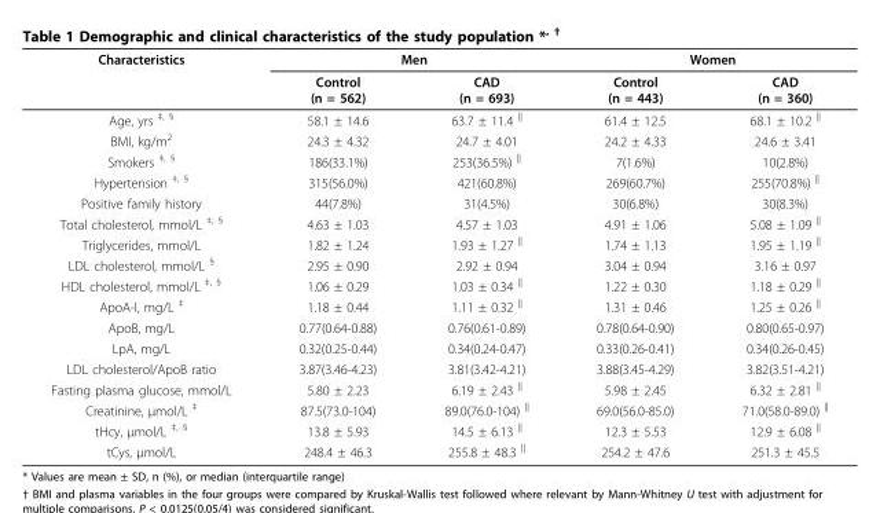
<table><thead><tr><td rowspan="2">Characteristics</td><td colspan="2">Men</td><td colspan="2">Women</td></tr><tr><td>Control (n = 562)</td><td>CAD (n = 693)</td><td>Control (n = 443)</td><td>CAD (n = 360)</td></tr></thead><tbody><tr><td>Age, yrs <sup>‡, §</sup></td><td>58.1 ± 14.6</td><td>63.7 ± 11.4 <sup>||</sup></td><td>61.4 ± 12.5</td><td>68.1 ± 10.2 <sup>||</sup></td></tr><tr><td>BMI, kg/m<sup>2</sup></td><td>24.3 ± 4.32</td><td>24.7 ± 4.01</td><td>24.2 ± 4.33</td><td>24.6 ± 3.41</td></tr><tr><td>Smokers <sup>‡, §</sup></td><td>186(33.1%)</td><td>253(36.5%) <sup>||</sup></td><td>7(1.6%)</td><td>10(2.8%)</td></tr><tr><td>Hypertension <sup>‡, §</sup></td><td>315(56.0%)</td><td>421(60.8%)</td><td>269(60.7%)</td><td>255(70.8%) <sup>||</sup></td></tr><tr><td>Positive family history</td><td>44(7.8%)</td><td>31(4.5%)</td><td>30(6.8%)</td><td>30(8.3%)</td></tr><tr><td>Total cholesterol, mmol/L <sup>‡, §</sup></td><td>4.63 ± 1.03</td><td>4.57 ± 1.03</td><td>4.91 ± 1.06</td><td>5.08 ± 1.09 <sup>||</sup></td></tr><tr><td>Triglycerides, mmol/L</td><td>1.82 ± 1.24</td><td>1.93 ± 1.27 <sup>||</sup></td><td>1.74 ± 1.13</td><td>1.95 ± 1.19 <sup>||</sup></td></tr><tr><td>LDL cholesterol, mmol/L <sup>§</sup></td><td>2.95 ± 0.90</td><td>2.92 ± 0.94</td><td>3.04 ± 0.94</td><td>3.16 ± 0.97</td></tr><tr><td>HDL cholesterol, mmol/L <sup>‡, §</sup></td><td>1.06 ± 0.29</td><td>1.03 ± 0.34 <sup>||</sup></td><td>1.22 ± 0.30</td><td>1.18 ± 0.29 <sup>||</sup></td></tr><tr><td>ApoA-I, mg/L <sup>‡</sup></td><td>1.18 ± 0.44</td><td>1.11 ± 0.32 <sup>||</sup></td><td>1.31 ± 0.46</td><td>1.25 ± 0.26 <sup>||</sup></td></tr><tr><td>ApoB, mg/L</td><td>0.77(0.64-0.88)</td><td>0.76(0.61-0.89)</td><td>0.78(0.64-0.90)</td><td>0.80(0.65-0.97)</td></tr><tr><td>LpA, mg/L</td><td>0.32(0.25-0.44)</td><td>0.34(0.24-0.47)</td><td>0.33(0.26-0.41)</td><td>0.34(0.26-0.45)</td></tr><tr><td>LDL cholesterol/ApoB ratio</td><td>3.87(3.46-4.23)</td><td>3.81(3.42-4.21)</td><td>3.88(3.45-4.29)</td><td>3.82(3.51-4.21)</td></tr><tr><td>Fasting plasma glucose, mmol/L</td><td>5.80 ± 2.23</td><td>6.19 ± 2.43 <sup>||</sup></td><td>5.98 ± 2.45</td><td>6.32 ± 2.81 <sup>||</sup></td></tr><tr><td>Creatinine, μmol/L <sup>‡</sup></td><td>87.5(73.0-104)</td><td>89.0(76.0-104) <sup>||</sup></td><td>69.0(56.0-85.0)</td><td>71.0(58.0-89.0) <sup>||</sup></td></tr><tr><td>tHcy, μmol/L <sup>‡, §</sup></td><td>13.8 ± 5.93</td><td>14.5 ± 6.13 <sup>||</sup></td><td>12.3 ± 5.53</td><td>12.9 ± 6.08 <sup>||</sup></td></tr><tr><td>tCys, μmol/L</td><td>248.4 ± 46.3</td><td>255.8 ± 48.3 <sup>||</sup></td><td>254.2 ± 47.6</td><td>251.3 ± 45.5</td></tr></tbody></table>